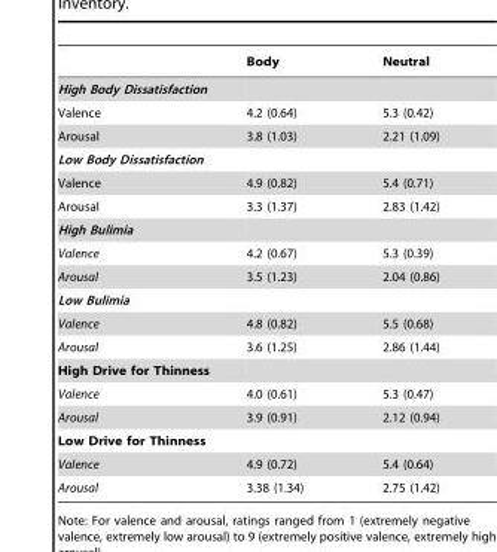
<table><thead><tr><td></td><td>Body</td><td>Neutral</td></tr></thead><tbody><tr><td colspan="3">High Body Dissatisfaction</td></tr><tr><td>Valence</td><td>4.2 (0.64)</td><td>5.3 (0.42)</td></tr><tr><td>Arousal</td><td>3.8 (1.03)</td><td>2.21 (1.09)</td></tr><tr><td colspan="3">Low Body Dissatisfaction</td></tr><tr><td>Valence</td><td>4.9 (0.82)</td><td>5.4 (0.71)</td></tr><tr><td>Arousal</td><td>3.3 (1.37)</td><td>2.83 (1.42)</td></tr><tr><td colspan="3">High Bulimia</td></tr><tr><td>Valence</td><td>4.2 (0.67)</td><td>5.3 (0.39)</td></tr><tr><td>Arousal</td><td>3.5 (1.23)</td><td>2.04 (0.86)</td></tr><tr><td colspan="3">Low Bulimia</td></tr><tr><td>Valence</td><td>4.8 (0.82)</td><td>5.5 (0.68)</td></tr><tr><td>Arousal</td><td>3.6 (1.25)</td><td>2.86 (1.44)</td></tr><tr><td colspan="3">High Drive for Thinness</td></tr><tr><td>Valence</td><td>4.0 (0.61)</td><td>5.3 (0.47)</td></tr><tr><td>Arousal</td><td>3.9 (0.91)</td><td>2.12 (0.94)</td></tr><tr><td colspan="3">Low Drive for Thinness</td></tr><tr><td>Valence</td><td>4.9 (0.72)</td><td>5.4 (0.64)</td></tr><tr><td>Arousal</td><td>3.38 (1.34)</td><td>2.75 (1.42)</td></tr></tbody></table>